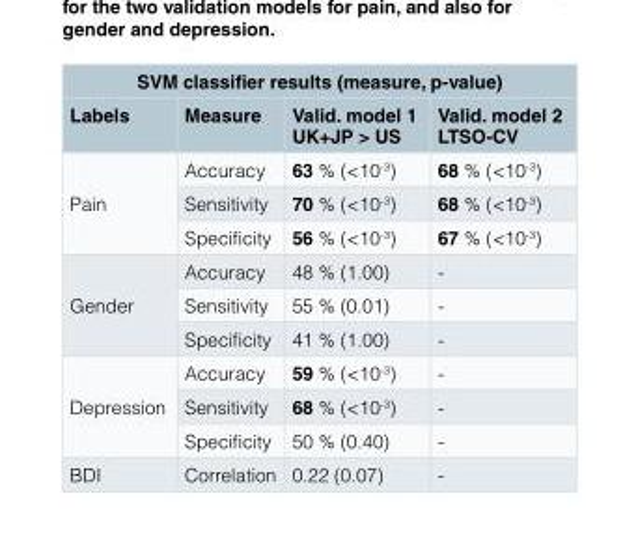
<table><thead><tr><td colspan="4">SVM classifier results (measure, p-value)</td></tr><tr><td>Labels</td><td>Measure</td><td>Valid. model 1 UK+JP &gt; US</td><td>Valid. model 2 LTSO-CV</td></tr></thead><tbody><tr><td rowspan="3">Pain</td><td>Accuracy</td><td>63 % (&lt;10<sup>-3</sup>)</td><td>68 % (&lt;10<sup>-3</sup>)</td></tr><tr><td>Sensitivity</td><td>70 % (&lt;10<sup>-3</sup>)</td><td>68 % (&lt;10<sup>-3</sup>)</td></tr><tr><td>Specificity</td><td>56 % (&lt;10<sup>-3</sup>)</td><td>67 % (&lt;10<sup>-3</sup>)</td></tr><tr><td rowspan="3">Gender</td><td>Accuracy</td><td>48 % (1.00)</td><td>-</td></tr><tr><td>Sensitivity</td><td>55 % (0.01)</td><td>-</td></tr><tr><td>Specificity</td><td>41 % (1.00)</td><td>-</td></tr><tr><td rowspan="3">Depression</td><td>Accuracy</td><td>59 % (&lt;10<sup>-3</sup>)</td><td>-</td></tr><tr><td>Sensitivity</td><td>68 % (&lt;10<sup>-3</sup>)</td><td>-</td></tr><tr><td>Specificity</td><td>50 % (0.40)</td><td>-</td></tr><tr><td>BDI</td><td>Correlation</td><td>0.22 (0.07)</td><td>-</td></tr></tbody></table>